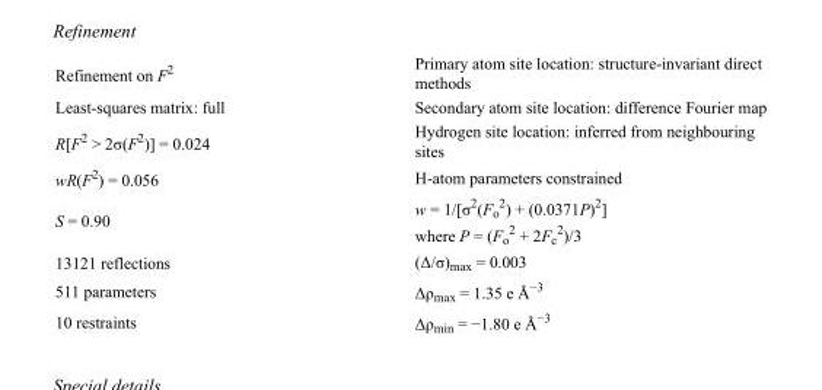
<table><tbody><tr><td>Refinement on F<sup>2</sup></td><td>Primary atom site location: structure-invariant direct methods</td></tr><tr><td>Least-squares matrix: full</td><td>Secondary atom site location: difference Fourier map</td></tr><tr><td>R[F<sup>2</sup> &gt; 2σ(F<sup>2</sup>)] = 0.024</td><td>Hydrogen site location: inferred from neighbouring sites</td></tr><tr><td>wR(F<sup>2</sup>) = 0.056</td><td>H-atom parameters constrained</td></tr><tr><td>S = 0.90</td><td>w = 1/[σ<sup>2</sup>(F<sub>o</sub> <sup>2</sup>) + (0.0371P)<sup>2</sup>] where P = (F<sub>o</sub> <sup>2</sup> + 2F<sub>c</sub> <sup>2</sup>)/3</td></tr><tr><td>13121 reflections</td><td>(Δ/σ)<sub>max</sub> = 0.003</td></tr><tr><td>511 parameters</td><td>Δρ<sub>max</sub> = 1.35 e Å<sup>−3</sup></td></tr><tr><td>10 restraints</td><td>Δρ<sub>min</sub> = −1.80 e Å<sup>−3</sup></td></tr></tbody></table>